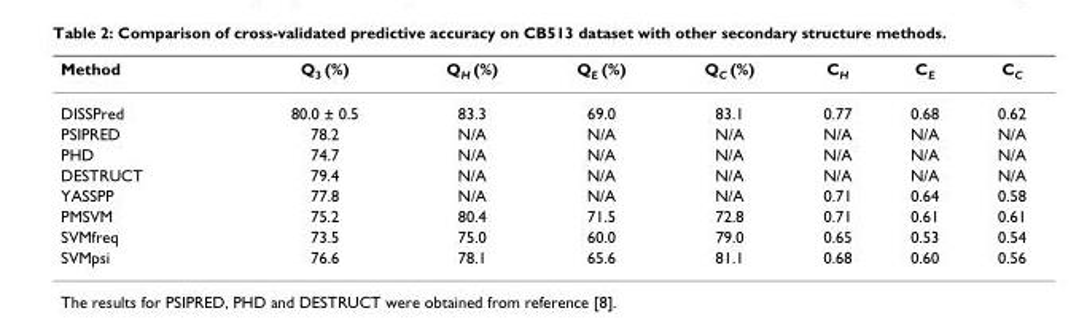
<table><thead><tr><td>Method</td><td>Q<sub>3</sub> (%)</td><td>Q<sub>H</sub> (%)</td><td>Q<sub>E</sub> (%)</td><td>Q<sub>C</sub> (%)</td><td>C<sub>H</sub></td><td>C<sub>E</sub></td><td>C<sub>C</sub></td></tr></thead><tbody><tr><td>DISSPred</td><td>80.0 ± 0.5</td><td>83.3</td><td>69.0</td><td>83.1</td><td>0.77</td><td>0.68</td><td>0.62</td></tr><tr><td>PSIPRED</td><td>78.2</td><td>N/A</td><td>N/A</td><td>N/A</td><td>N/A</td><td>N/A</td><td>N/A</td></tr><tr><td>PHD</td><td>74.7</td><td>N/A</td><td>N/A</td><td>N/A</td><td>N/A</td><td>N/A</td><td>N/A</td></tr><tr><td>DESTRUCT</td><td>79.4</td><td>N/A</td><td>N/A</td><td>N/A</td><td>N/A</td><td>N/A</td><td>N/A</td></tr><tr><td>YASSPP</td><td>77.8</td><td>N/A</td><td>N/A</td><td>N/A</td><td>0.71</td><td>0.64</td><td>0.58</td></tr><tr><td>PMSVM</td><td>75.2</td><td>80.4</td><td>71.5</td><td>72.8</td><td>0.71</td><td>0.61</td><td>0.61</td></tr><tr><td>SVMfreq</td><td>73.5</td><td>75.0</td><td>60.0</td><td>79.0</td><td>0.65</td><td>0.53</td><td>0.54</td></tr><tr><td>SVMpsi</td><td>76.6</td><td>78.1</td><td>65.6</td><td>81.1</td><td>0.68</td><td>0.60</td><td>0.56</td></tr></tbody></table>